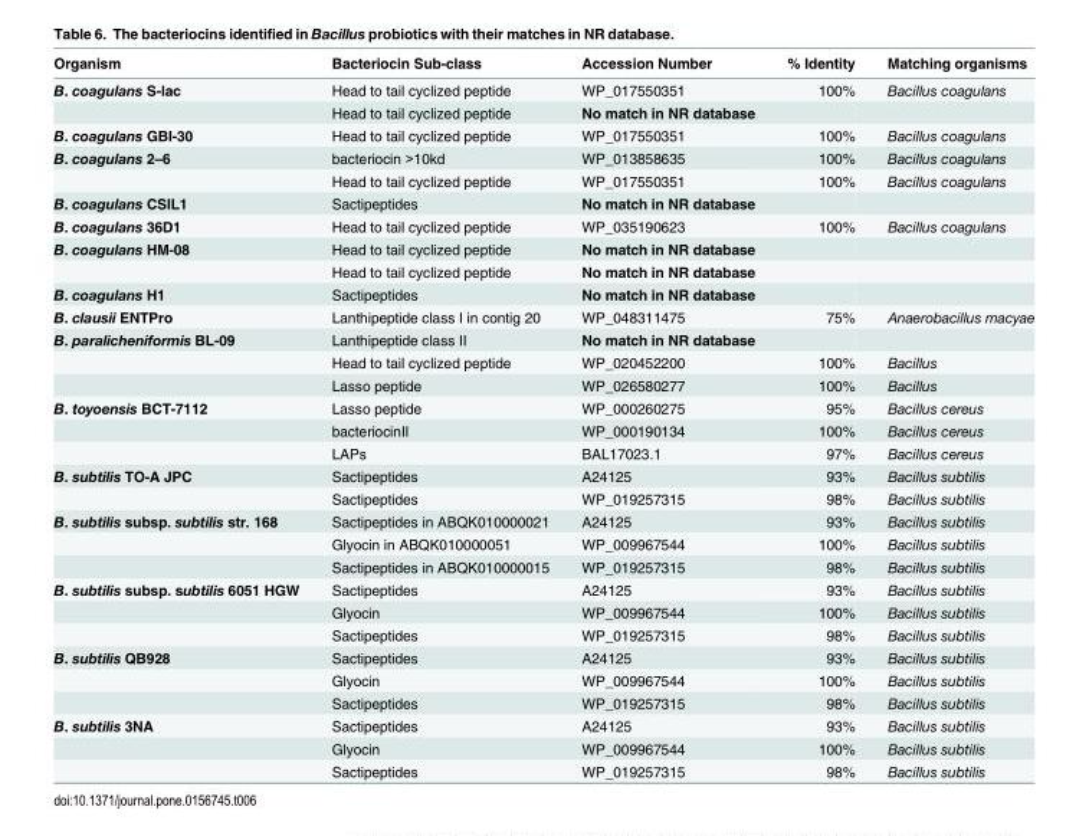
<table><thead><tr><td>Organism</td><td>Bacteriocin Sub-class</td><td>Accession Number</td><td>% Identity</td><td>Matching organisms</td></tr></thead><tbody><tr><td rowspan="2">B. coagulans S-lac</td><td>Head to tail cyclized peptide</td><td>WP_017550351</td><td>100%</td><td>Bacillus coagulans</td></tr><tr><td>Head to tail cyclized peptide</td><td>No match in NR database</td><td></td><td></td></tr><tr><td>B. coagulans GBI-30</td><td>Head to tail cyclized peptide</td><td>WP_017550351</td><td>100%</td><td>Bacillus coagulans</td></tr><tr><td rowspan="2">B. coagulans 2–6</td><td>bacteriocin &gt;10kd</td><td>WP_013858635</td><td>100%</td><td>Bacillus coagulans</td></tr><tr><td>Head to tail cyclized peptide</td><td>WP_017550351</td><td>100%</td><td>Bacillus coagulans</td></tr><tr><td>B. coagulans CSIL1</td><td>Sactipeptides</td><td>No match in NR database</td><td></td><td></td></tr><tr><td>B. coagulans 36D1</td><td>Head to tail cyclized peptide</td><td>WP_035190623</td><td>100%</td><td>Bacillus coagulans</td></tr><tr><td rowspan="2">B. coagulans HM-08</td><td>Head to tail cyclized peptide</td><td>No match in NR database</td><td></td><td></td></tr><tr><td>Head to tail cyclized peptide</td><td>No match in NR database</td><td></td><td></td></tr><tr><td>B. coagulans H1</td><td>Sactipeptides</td><td>No match in NR database</td><td></td><td></td></tr><tr><td>B. clausii ENTPro</td><td>Lanthipeptide class I in contig 20</td><td>WP_048311475</td><td>75%</td><td>Anaerobacillus macyae</td></tr><tr><td rowspan="3">B. paralicheniformis BL-09</td><td>Lanthipeptide class II</td><td>No match in NR database</td><td></td><td></td></tr><tr><td>Head to tail cyclized peptide</td><td>WP_020452200</td><td>100%</td><td>Bacillus</td></tr><tr><td>Lasso peptide</td><td>WP_026580277</td><td>100%</td><td>Bacillus</td></tr><tr><td rowspan="3">B. toyoensis BCT-7112</td><td>Lasso peptide</td><td>WP_000260275</td><td>95%</td><td>Bacillus cereus</td></tr><tr><td>bacteriocinII</td><td>WP_000190134</td><td>100%</td><td>Bacillus cereus</td></tr><tr><td>LAPs</td><td>BAL17023.1</td><td>97%</td><td>Bacillus cereus</td></tr><tr><td rowspan="2">B. subtilis TO-A JPC</td><td>Sactipeptides</td><td>A24125</td><td>93%</td><td>Bacillus subtilis</td></tr><tr><td>Sactipeptides</td><td>WP_019257315</td><td>98%</td><td>Bacillus subtilis</td></tr><tr><td rowspan="3">B. subtilis subsp. subtilis str. 168</td><td>Sactipeptides in ABQK010000021</td><td>A24125</td><td>93%</td><td>Bacillus subtilis</td></tr><tr><td>Glyocin in ABQK010000051</td><td>WP_009967544</td><td>100%</td><td>Bacillus subtilis</td></tr><tr><td>Sactipeptides in ABQK010000015</td><td>WP_019257315</td><td>98%</td><td>Bacillus subtilis</td></tr><tr><td rowspan="3">B. subtilis subsp. subtilis 6051 HGW</td><td>Sactipeptides</td><td>A24125</td><td>93%</td><td>Bacillus subtilis</td></tr><tr><td>Glyocin</td><td>WP_009967544</td><td>100%</td><td>Bacillus subtilis</td></tr><tr><td>Sactipeptides</td><td>WP_019257315</td><td>98%</td><td>Bacillus subtilis</td></tr><tr><td rowspan="3">B. subtilis QB928</td><td>Sactipeptides</td><td>A24125</td><td>93%</td><td>Bacillus subtilis</td></tr><tr><td>Glyocin</td><td>WP_009967544</td><td>100%</td><td>Bacillus subtilis</td></tr><tr><td>Sactipeptides</td><td>WP_019257315</td><td>98%</td><td>Bacillus subtilis</td></tr><tr><td rowspan="3">B. subtilis 3NA</td><td>Sactipeptides</td><td>A24125</td><td>93%</td><td>Bacillus subtilis</td></tr><tr><td>Glyocin</td><td>WP_009967544</td><td>100%</td><td>Bacillus subtilis</td></tr><tr><td>Sactipeptides</td><td>WP_019257315</td><td>98%</td><td>Bacillus subtilis</td></tr></tbody></table>